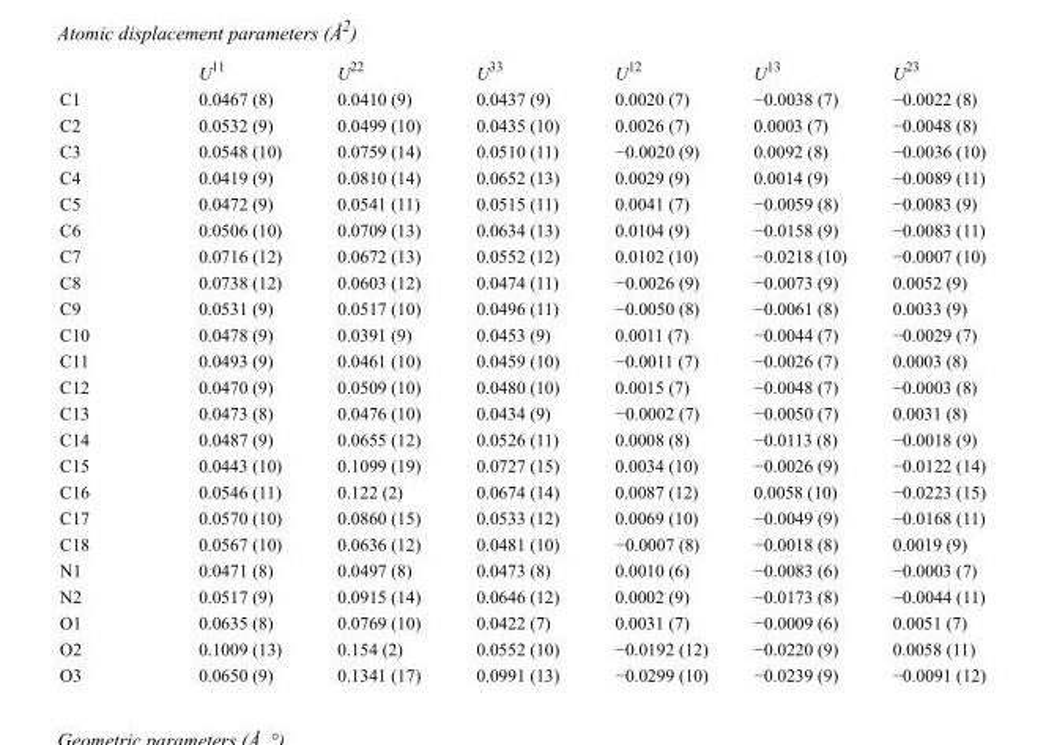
<table><thead><tr><td></td><td>U<sup>11</sup></td><td>U<sup>22</sup></td><td>U<sup>33</sup></td><td>U<sup>12</sup></td><td>U<sup>13</sup></td><td>U<sup>23</sup></td></tr></thead><tbody><tr><td>C1</td><td>0.0467 (8)</td><td>0.0410 (9)</td><td>0.0437 (9)</td><td>0.0020 (7)</td><td>−0.0038 (7)</td><td>−0.0022 (8)</td></tr><tr><td>C2</td><td>0.0532 (9)</td><td>0.0499 (10)</td><td>0.0435 (10)</td><td>0.0026 (7)</td><td>0.0003 (7)</td><td>−0.0048 (8)</td></tr><tr><td>C3</td><td>0.0548 (10)</td><td>0.0759 (14)</td><td>0.0510 (11)</td><td>−0.0020 (9)</td><td>0.0092 (8)</td><td>−0.0036 (10)</td></tr><tr><td>C4</td><td>0.0419 (9)</td><td>0.0810 (14)</td><td>0.0652 (13)</td><td>0.0029 (9)</td><td>0.0014 (9)</td><td>−0.0089 (11)</td></tr><tr><td>C5</td><td>0.0472 (9)</td><td>0.0541 (11)</td><td>0.0515 (11)</td><td>0.0041 (7)</td><td>−0.0059 (8)</td><td>−0.0083 (9)</td></tr><tr><td>C6</td><td>0.0506 (10)</td><td>0.0709 (13)</td><td>0.0634 (13)</td><td>0.0104 (9)</td><td>−0.0158 (9)</td><td>−0.0083 (11)</td></tr><tr><td>C7</td><td>0.0716 (12)</td><td>0.0672 (13)</td><td>0.0552 (12)</td><td>0.0102 (10)</td><td>−0.0218 (10)</td><td>−0.0007 (10)</td></tr><tr><td>C8</td><td>0.0738 (12)</td><td>0.0603 (12)</td><td>0.0474 (11)</td><td>−0.0026 (9)</td><td>−0.0073 (9)</td><td>0.0052 (9)</td></tr><tr><td>C9</td><td>0.0531 (9)</td><td>0.0517 (10)</td><td>0.0496 (11)</td><td>−0.0050 (8)</td><td>−0.0061 (8)</td><td>0.0033 (9)</td></tr><tr><td>C10</td><td>0.0478 (9)</td><td>0.0391 (9)</td><td>0.0453 (9)</td><td>0.0011 (7)</td><td>−0.0044 (7)</td><td>−0.0029 (7)</td></tr><tr><td>C11</td><td>0.0493 (9)</td><td>0.0461 (10)</td><td>0.0459 (10)</td><td>−0.0011 (7)</td><td>−0.0026 (7)</td><td>0.0003 (8)</td></tr><tr><td>C12</td><td>0.0470 (9)</td><td>0.0509 (10)</td><td>0.0480 (10)</td><td>0.0015 (7)</td><td>−0.0048 (7)</td><td>−0.0003 (8)</td></tr><tr><td>C13</td><td>0.0473 (8)</td><td>0.0476 (10)</td><td>0.0434 (9)</td><td>−0.0002 (7)</td><td>−0.0050 (7)</td><td>0.0031 (8)</td></tr><tr><td>C14</td><td>0.0487 (9)</td><td>0.0655 (12)</td><td>0.0526 (11)</td><td>0.0008 (8)</td><td>−0.0113 (8)</td><td>−0.0018 (9)</td></tr><tr><td>C15</td><td>0.0443 (10)</td><td>0.1099 (19)</td><td>0.0727 (15)</td><td>0.0034 (10)</td><td>−0.0026 (9)</td><td>−0.0122 (14)</td></tr><tr><td>C16</td><td>0.0546 (11)</td><td>0.122 (2)</td><td>0.0674 (14)</td><td>0.0087 (12)</td><td>0.0058 (10)</td><td>−0.0223 (15)</td></tr><tr><td>C17</td><td>0.0570 (10)</td><td>0.0860 (15)</td><td>0.0533 (12)</td><td>0.0069 (10)</td><td>−0.0049 (9)</td><td>−0.0168 (11)</td></tr><tr><td>C18</td><td>0.0567 (10)</td><td>0.0636 (12)</td><td>0.0481 (10)</td><td>−0.0007 (8)</td><td>−0.0018 (8)</td><td>0.0019 (9)</td></tr><tr><td>N1</td><td>0.0471 (8)</td><td>0.0497 (8)</td><td>0.0473 (8)</td><td>0.0010 (6)</td><td>−0.0083 (6)</td><td>−0.0003 (7)</td></tr><tr><td>N2</td><td>0.0517 (9)</td><td>0.0915 (14)</td><td>0.0646 (12)</td><td>0.0002 (9)</td><td>−0.0173 (8)</td><td>−0.0044 (11)</td></tr><tr><td>O1</td><td>0.0635 (8)</td><td>0.0769 (10)</td><td>0.0422 (7)</td><td>0.0031 (7)</td><td>−0.0009 (6)</td><td>0.0051 (7)</td></tr><tr><td>O2</td><td>0.1009 (13)</td><td>0.154 (2)</td><td>0.0552 (10)</td><td>−0.0192 (12)</td><td>−0.0220 (9)</td><td>0.0058 (11)</td></tr><tr><td>O3</td><td>0.0650 (9)</td><td>0.1341 (17)</td><td>0.0991 (13)</td><td>−0.0299 (10)</td><td>−0.0239 (9)</td><td>−0.0091 (12)</td></tr></tbody></table>